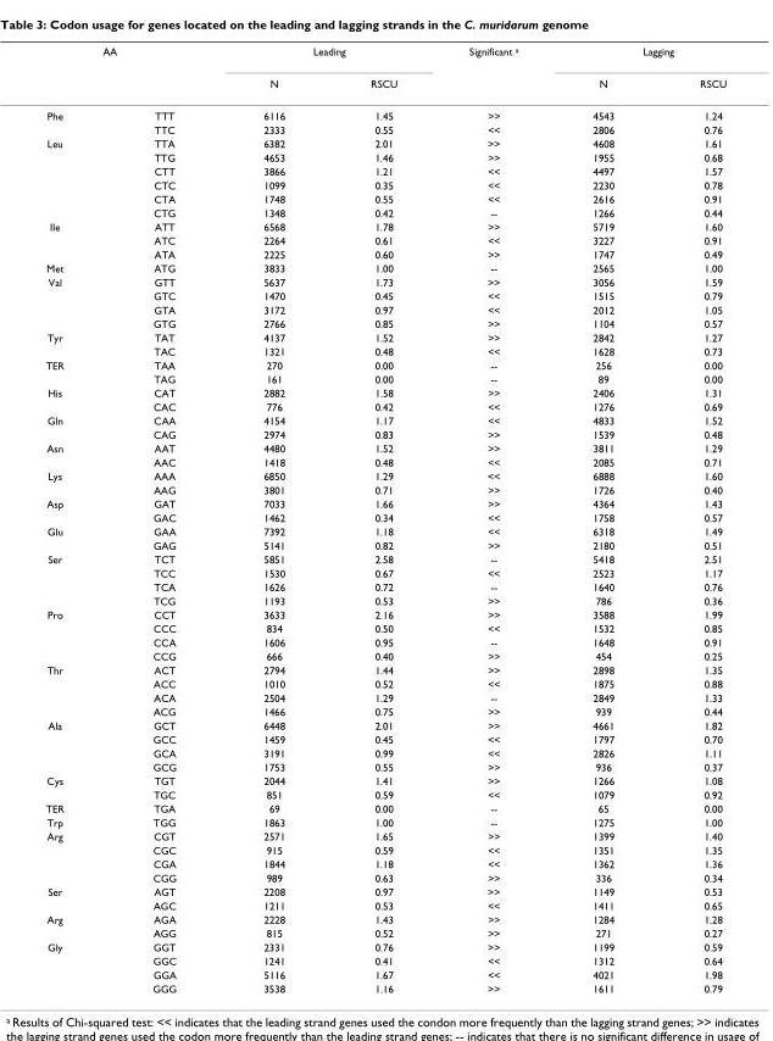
<table><thead><tr><td colspan="2">AA</td><td colspan="2">Leading</td><td rowspan="2">Significant <sup>a</sup></td><td colspan="2">Lagging</td></tr><tr><td></td><td></td><td>N</td><td>RSCU</td><td>N</td><td>RSCU</td></tr></thead><tbody><tr><td rowspan="2">Phe</td><td>TTT</td><td>6116</td><td>1.45</td><td>&gt;&gt;</td><td>4543</td><td>1.24</td></tr><tr><td>TTC</td><td>2333</td><td>0.55</td><td>&lt;&lt;</td><td>2806</td><td>0.76</td></tr><tr><td rowspan="6">Leu</td><td>TTA</td><td>6382</td><td>2.01</td><td>&gt;&gt;</td><td>4608</td><td>1.61</td></tr><tr><td>TTG</td><td>4653</td><td>1.46</td><td>&gt;&gt;</td><td>1955</td><td>0.68</td></tr><tr><td>CTT</td><td>3866</td><td>1.21</td><td>&lt;&lt;</td><td>4497</td><td>1.57</td></tr><tr><td>CTC</td><td>1099</td><td>0.35</td><td>&lt;&lt;</td><td>2230</td><td>0.78</td></tr><tr><td>CTA</td><td>1748</td><td>0.55</td><td>&lt;&lt;</td><td>2616</td><td>0.91</td></tr><tr><td>CTG</td><td>1348</td><td>0.42</td><td>--</td><td>1266</td><td>0.44</td></tr><tr><td rowspan="3">Ile</td><td>ATT</td><td>6568</td><td>1.78</td><td>&gt;&gt;</td><td>5719</td><td>1.60</td></tr><tr><td>ATC</td><td>2264</td><td>0.61</td><td>&lt;&lt;</td><td>3227</td><td>0.91</td></tr><tr><td>ATA</td><td>2225</td><td>0.60</td><td>&gt;&gt;</td><td>1747</td><td>0.49</td></tr><tr><td>Met</td><td>ATG</td><td>3833</td><td>1.00</td><td>--</td><td>2565</td><td>1.00</td></tr><tr><td rowspan="4">Val</td><td>GTT</td><td>5637</td><td>1.73</td><td>&gt;&gt;</td><td>3056</td><td>1.59</td></tr><tr><td>GTC</td><td>1470</td><td>0.45</td><td>&lt;&lt;</td><td>1515</td><td>0.79</td></tr><tr><td>GTA</td><td>3172</td><td>0.97</td><td>&lt;&lt;</td><td>2012</td><td>1.05</td></tr><tr><td>GTG</td><td>2766</td><td>0.85</td><td>&gt;&gt;</td><td>1104</td><td>0.57</td></tr><tr><td rowspan="2">Tyr</td><td>TAT</td><td>4137</td><td>1.52</td><td>&gt;&gt;</td><td>2842</td><td>1.27</td></tr><tr><td>TAC</td><td>1321</td><td>0.48</td><td>&lt;&lt;</td><td>1628</td><td>0.73</td></tr><tr><td rowspan="2">TER</td><td>TAA</td><td>270</td><td>0.00</td><td>--</td><td>256</td><td>0.00</td></tr><tr><td>TAG</td><td>161</td><td>0.00</td><td>--</td><td>89</td><td>0.00</td></tr><tr><td rowspan="2">His</td><td>CAT</td><td>2882</td><td>1.58</td><td>&gt;&gt;</td><td>2406</td><td>1.31</td></tr><tr><td>CAC</td><td>776</td><td>0.42</td><td>&lt;&lt;</td><td>1276</td><td>0.69</td></tr><tr><td rowspan="2">Gln</td><td>CAA</td><td>4154</td><td>1.17</td><td>&lt;&lt;</td><td>4833</td><td>1.52</td></tr><tr><td>CAG</td><td>2974</td><td>0.83</td><td>&gt;&gt;</td><td>1539</td><td>0.48</td></tr><tr><td rowspan="2">Asn</td><td>AAT</td><td>4480</td><td>1.52</td><td>&gt;&gt;</td><td>3811</td><td>1.29</td></tr><tr><td>AAC</td><td>1418</td><td>0.48</td><td>&lt;&lt;</td><td>2085</td><td>0.71</td></tr><tr><td rowspan="2">Lys</td><td>AAA</td><td>6850</td><td>1.29</td><td>&lt;&lt;</td><td>6888</td><td>1.60</td></tr><tr><td>AAG</td><td>3801</td><td>0.71</td><td>&gt;&gt;</td><td>1726</td><td>0.40</td></tr><tr><td rowspan="2">Asp</td><td>GAT</td><td>7033</td><td>1.66</td><td>&gt;&gt;</td><td>4364</td><td>1.43</td></tr><tr><td>GAC</td><td>1462</td><td>0.34</td><td>&lt;&lt;</td><td>1758</td><td>0.57</td></tr><tr><td rowspan="2">Glu</td><td>GAA</td><td>7392</td><td>1.18</td><td>&lt;&lt;</td><td>6318</td><td>1.49</td></tr><tr><td>GAG</td><td>5141</td><td>0.82</td><td>&gt;&gt;</td><td>2180</td><td>0.51</td></tr><tr><td rowspan="4">Ser</td><td>TCT</td><td>5851</td><td>2.58</td><td>--</td><td>5418</td><td>2.51</td></tr><tr><td>TCC</td><td>1530</td><td>0.67</td><td>&lt;&lt;</td><td>2523</td><td>1.17</td></tr><tr><td>TCA</td><td>1626</td><td>0.72</td><td>--</td><td>1640</td><td>0.76</td></tr><tr><td>TCG</td><td>1193</td><td>0.53</td><td>&gt;&gt;</td><td>786</td><td>0.36</td></tr><tr><td rowspan="4">Pro</td><td>CCT</td><td>3633</td><td>2.16</td><td>&gt;&gt;</td><td>3588</td><td>1.99</td></tr><tr><td>CCC</td><td>834</td><td>0.50</td><td>&lt;&lt;</td><td>1532</td><td>0.85</td></tr><tr><td>CCA</td><td>1606</td><td>0.95</td><td>--</td><td>1648</td><td>0.91</td></tr><tr><td>CCG</td><td>666</td><td>0.40</td><td>&gt;&gt;</td><td>454</td><td>0.25</td></tr><tr><td rowspan="4">Thr</td><td>ACT</td><td>2794</td><td>1.44</td><td>&gt;&gt;</td><td>2898</td><td>1.35</td></tr><tr><td>ACC</td><td>1010</td><td>0.52</td><td>&lt;&lt;</td><td>1875</td><td>0.88</td></tr><tr><td>ACA</td><td>2504</td><td>1.29</td><td>--</td><td>2849</td><td>1.33</td></tr><tr><td>ACG</td><td>1466</td><td>0.75</td><td>&gt;&gt;</td><td>939</td><td>0.44</td></tr><tr><td rowspan="4">Ala</td><td>GCT</td><td>6448</td><td>2.01</td><td>&gt;&gt;</td><td>4661</td><td>1.82</td></tr><tr><td>GCC</td><td>1459</td><td>0.45</td><td>&lt;&lt;</td><td>1797</td><td>0.70</td></tr><tr><td>GCA</td><td>3191</td><td>0.99</td><td>&lt;&lt;</td><td>2826</td><td>1.11</td></tr><tr><td>GCG</td><td>1753</td><td>0.55</td><td>&gt;&gt;</td><td>936</td><td>0.37</td></tr><tr><td rowspan="2">Cys</td><td>TGT</td><td>2044</td><td>1.41</td><td>&gt;&gt;</td><td>1266</td><td>1.08</td></tr><tr><td>TGC</td><td>851</td><td>0.59</td><td>&lt;&lt;</td><td>1079</td><td>0.92</td></tr><tr><td>TER</td><td>TGA</td><td>69</td><td>0.00</td><td>--</td><td>65</td><td>0.00</td></tr><tr><td>Trp</td><td>TGG</td><td>1863</td><td>1.00</td><td>--</td><td>1275</td><td>1.00</td></tr><tr><td rowspan="4">Arg</td><td>CGT</td><td>2571</td><td>1.65</td><td>&gt;&gt;</td><td>1399</td><td>1.40</td></tr><tr><td>CGC</td><td>915</td><td>0.59</td><td>&lt;&lt;</td><td>1351</td><td>1.35</td></tr><tr><td>CGA</td><td>1844</td><td>1.18</td><td>&lt;&lt;</td><td>1362</td><td>1.36</td></tr><tr><td>CGG</td><td>989</td><td>0.63</td><td>&gt;&gt;</td><td>336</td><td>0.34</td></tr><tr><td rowspan="2">Ser</td><td>AGT</td><td>2208</td><td>0.97</td><td>&gt;&gt;</td><td>1149</td><td>0.53</td></tr><tr><td>AGC</td><td>1211</td><td>0.53</td><td>&lt;&lt;</td><td>1411</td><td>0.65</td></tr><tr><td rowspan="2">Arg</td><td>AGA</td><td>2228</td><td>1.43</td><td>&gt;&gt;</td><td>1284</td><td>1.28</td></tr><tr><td>AGG</td><td>815</td><td>0.52</td><td>&gt;&gt;</td><td>271</td><td>0.27</td></tr><tr><td rowspan="4">Gly</td><td>GGT</td><td>2331</td><td>0.76</td><td>&gt;&gt;</td><td>1199</td><td>0.59</td></tr><tr><td>GGC</td><td>1241</td><td>0.41</td><td>&lt;&lt;</td><td>1312</td><td>0.64</td></tr><tr><td>GGA</td><td>5116</td><td>1.67</td><td>&lt;&lt;</td><td>4021</td><td>1.98</td></tr><tr><td>GGG</td><td>3538</td><td>1.16</td><td>&gt;&gt;</td><td>1611</td><td>0.79</td></tr></tbody></table>